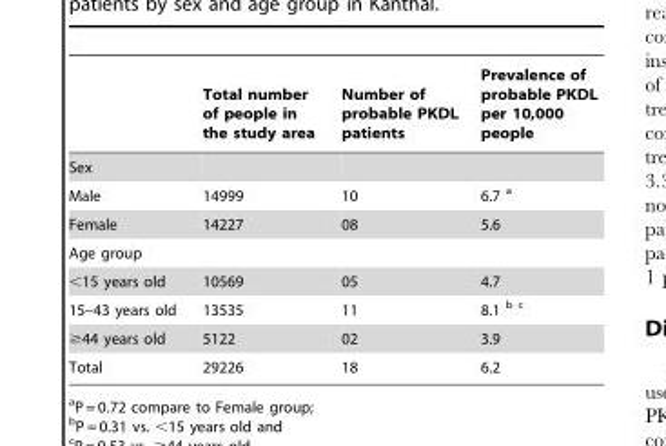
<table><thead><tr><td></td><td>Total number of people in the study area</td><td>Number of probable PKDL patients</td><td>Prevalence of probable PKDL per 10,000 people</td></tr></thead><tbody><tr><td colspan="4">Sex</td></tr><tr><td>Male</td><td>14999</td><td>10</td><td>6.7 a</td></tr><tr><td>Female</td><td>14227</td><td>08</td><td>5.6</td></tr><tr><td colspan="4">Age group</td></tr><tr><td>&lt;15 years old</td><td>10569</td><td>05</td><td>4.7</td></tr><tr><td>15–43 years old</td><td>13535</td><td>11</td><td>8.1 b c</td></tr><tr><td>≥44 years old</td><td>5122</td><td>02</td><td>3.9</td></tr><tr><td>Total</td><td>29226</td><td>18</td><td>6.2</td></tr></tbody></table>